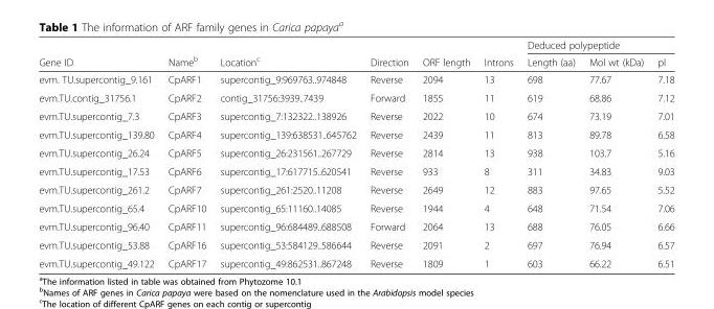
<table><thead><tr><td rowspan="2">Gene ID</td><td rowspan="2">Name<sup>b</sup></td><td rowspan="2">Location<sup>c</sup></td><td rowspan="2">Direction</td><td rowspan="2">ORF length</td><td rowspan="2">Introns</td><td colspan="3">Deduced polypeptide</td></tr><tr><td>Length (aa)</td><td>Mol wt (kDa)</td><td>pI</td></tr></thead><tbody><tr><td>evm. TU.supercontig_9.161</td><td>CpARF1</td><td>supercontig_9:969763..974848</td><td>Reverse</td><td>2094</td><td>13</td><td>698</td><td>77.67</td><td>7.18</td></tr><tr><td>evm.TU.contig_31756.1</td><td>CpARF2</td><td>contig_31756:3939..7439</td><td>Forward</td><td>1855</td><td>11</td><td>619</td><td>68.86</td><td>7.12</td></tr><tr><td>evm.TU.supercontig_7.3</td><td>CpARF3</td><td>supercontig_7:132322..138926</td><td>Reverse</td><td>2022</td><td>10</td><td>674</td><td>73.19</td><td>7.01</td></tr><tr><td>evm.TU.supercontig_139.80</td><td>CpARF4</td><td>supercontig_139:638531..645762</td><td>Reverse</td><td>2439</td><td>11</td><td>813</td><td>89.78</td><td>6.58</td></tr><tr><td>evm.TU.supercontig_26.24</td><td>CpARF5</td><td>supercontig_26:231561..267729</td><td>Reverse</td><td>2814</td><td>13</td><td>938</td><td>103.7</td><td>5.16</td></tr><tr><td>evm.TU.supercontig_17.53</td><td>CpARF6</td><td>supercontig_17:617715..620541</td><td>Reverse</td><td>933</td><td>8</td><td>311</td><td>34.83</td><td>9.03</td></tr><tr><td>evm.TU.supercontig_261.2</td><td>CpARF7</td><td>supercontig_261:2520..11208</td><td>Reverse</td><td>2649</td><td>12</td><td>883</td><td>97.65</td><td>5.52</td></tr><tr><td>evm.TU.supercontig_65.4</td><td>CpARF10</td><td>supercontig_65:11160..14085</td><td>Reverse</td><td>1944</td><td>4</td><td>648</td><td>71.54</td><td>7.06</td></tr><tr><td>evm.TU.supercontig_96.40</td><td>CpARF11</td><td>supercontig_96:684489..688508</td><td>Forward</td><td>2064</td><td>13</td><td>688</td><td>76.05</td><td>6.66</td></tr><tr><td>evm.TU.supercontig_53.88</td><td>CpARF16</td><td>supercontig_53:584129..586644</td><td>Reverse</td><td>2091</td><td>2</td><td>697</td><td>76.94</td><td>6.57</td></tr><tr><td>evm.TU.supercontig_49.122</td><td>CpARF17</td><td>supercontig_49:862531..867248</td><td>Reverse</td><td>1809</td><td>1</td><td>603</td><td>66.22</td><td>6.51</td></tr></tbody></table>